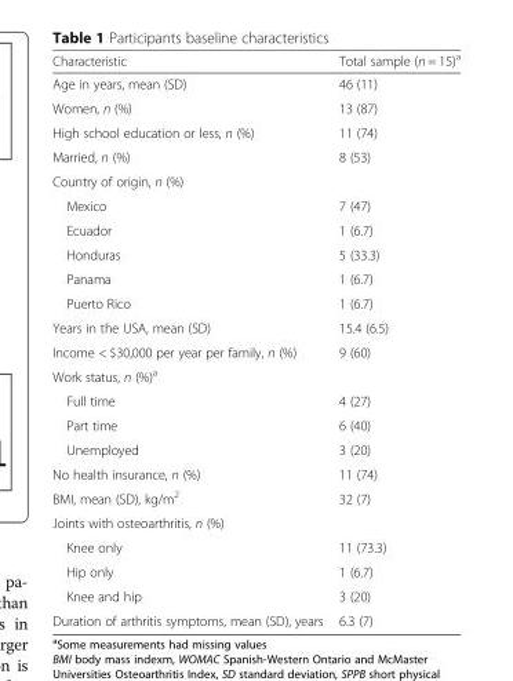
<table><thead><tr><td>Characteristic</td><td>Total sample (n = 15)<sup>a</sup></td></tr></thead><tbody><tr><td>Age in years, mean (SD)</td><td>46 (11)</td></tr><tr><td>Women, n (%)</td><td>13 (87)</td></tr><tr><td>High school education or less, n (%)</td><td>11 (74)</td></tr><tr><td>Married, n (%)</td><td>8 (53)</td></tr><tr><td colspan="2">Country of origin, n (%)</td></tr><tr><td>Mexico</td><td>7 (47)</td></tr><tr><td>Ecuador</td><td>1 (6.7)</td></tr><tr><td>Honduras</td><td>5 (33.3)</td></tr><tr><td>Panama</td><td>1 (6.7)</td></tr><tr><td>Puerto Rico</td><td>1 (6.7)</td></tr><tr><td>Years in the USA, mean (SD)</td><td>15.4 (6.5)</td></tr><tr><td>Income &lt; $30,000 per year per family, n (%)</td><td>9 (60)</td></tr><tr><td colspan="2">Work status, n (%)<sup>a</sup></td></tr><tr><td>Full time</td><td>4 (27)</td></tr><tr><td>Part time</td><td>6 (40)</td></tr><tr><td>Unemployed</td><td>3 (20)</td></tr><tr><td>No health insurance, n (%)</td><td>11 (74)</td></tr><tr><td>BMI, mean (SD), kg/m<sup>2</sup></td><td>32 (7)</td></tr><tr><td colspan="2">Joints with osteoarthritis, n (%)</td></tr><tr><td>Knee only</td><td>11 (73.3)</td></tr><tr><td>Hip only</td><td>1 (6.7)</td></tr><tr><td>Knee and hip</td><td>3 (20)</td></tr><tr><td>Duration of arthritis symptoms, mean (SD), years</td><td>6.3 (7)</td></tr></tbody></table>